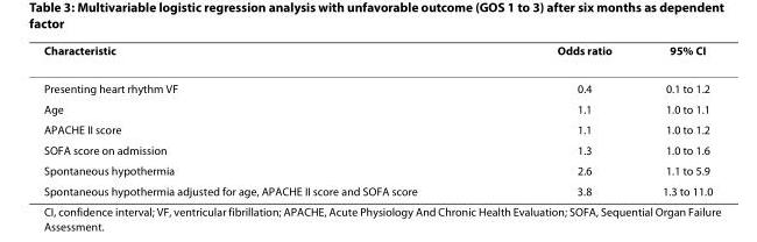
<table><thead><tr><td>Characteristic</td><td>Odds ratio</td><td>95% CI</td></tr></thead><tbody><tr><td>Presenting heart rhythm VF</td><td>0.4</td><td>0.1 to 1.2</td></tr><tr><td>Age</td><td>1.1</td><td>1.0 to 1.1</td></tr><tr><td>APACHE II score</td><td>1.1</td><td>1.0 to 1.2</td></tr><tr><td>SOFA score on admission</td><td>1.3</td><td>1.0 to 1.6</td></tr><tr><td>Spontaneous hypothermia</td><td>2.6</td><td>1.1 to 5.9</td></tr><tr><td>Spontaneous hypothermia adjusted for age, APACHE II score and SOFA score</td><td>3.8</td><td>1.3 to 11.0</td></tr></tbody></table>